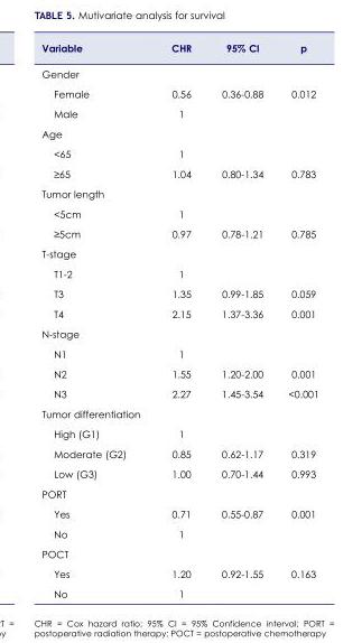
<table><thead><tr><td>Variable</td><td>CHR</td><td>95% CI</td><td>p</td></tr></thead><tbody><tr><td colspan="4">Gender</td></tr><tr><td>Female</td><td>0.56</td><td>0.36-0.88</td><td>0.012</td></tr><tr><td>Male</td><td>1</td><td></td><td></td></tr><tr><td colspan="4">Age</td></tr><tr><td>&lt;65</td><td>1</td><td></td><td></td></tr><tr><td>≥65</td><td>1.04</td><td>0.80-1.34</td><td>0.783</td></tr><tr><td colspan="4">Tumor length</td></tr><tr><td>&lt;5cm</td><td>1</td><td></td><td></td></tr><tr><td>≥5cm</td><td>0.97</td><td>0.78-1.21</td><td>0.785</td></tr><tr><td colspan="4">T-stage</td></tr><tr><td>T1-2</td><td>1</td><td></td><td></td></tr><tr><td>T3</td><td>1.35</td><td>0.99-1.85</td><td>0.059</td></tr><tr><td>T4</td><td>2.15</td><td>1.37-3.36</td><td>0.001</td></tr><tr><td colspan="4">N-stage</td></tr><tr><td>N1</td><td>1</td><td></td><td></td></tr><tr><td>N2</td><td>1.55</td><td>1.20-2.00</td><td>0.001</td></tr><tr><td>N3</td><td>2.27</td><td>1.45-3.54</td><td>&lt;0.001</td></tr><tr><td colspan="4">Tumor differentiation</td></tr><tr><td>High (G1)</td><td>1</td><td></td><td></td></tr><tr><td>Moderate (G2)</td><td>0.85</td><td>0.62-1.17</td><td>0.319</td></tr><tr><td>Low (G3)</td><td>1.00</td><td>0.70-1.44</td><td>0.993</td></tr><tr><td colspan="4">PORT</td></tr><tr><td>Yes</td><td>0.71</td><td>0.55-0.87</td><td>0.001</td></tr><tr><td>No</td><td>1</td><td></td><td></td></tr><tr><td colspan="4">POCT</td></tr><tr><td>Yes</td><td>1.20</td><td>0.92-1.55</td><td>0.163</td></tr><tr><td>No</td><td>1</td><td></td><td></td></tr></tbody></table>